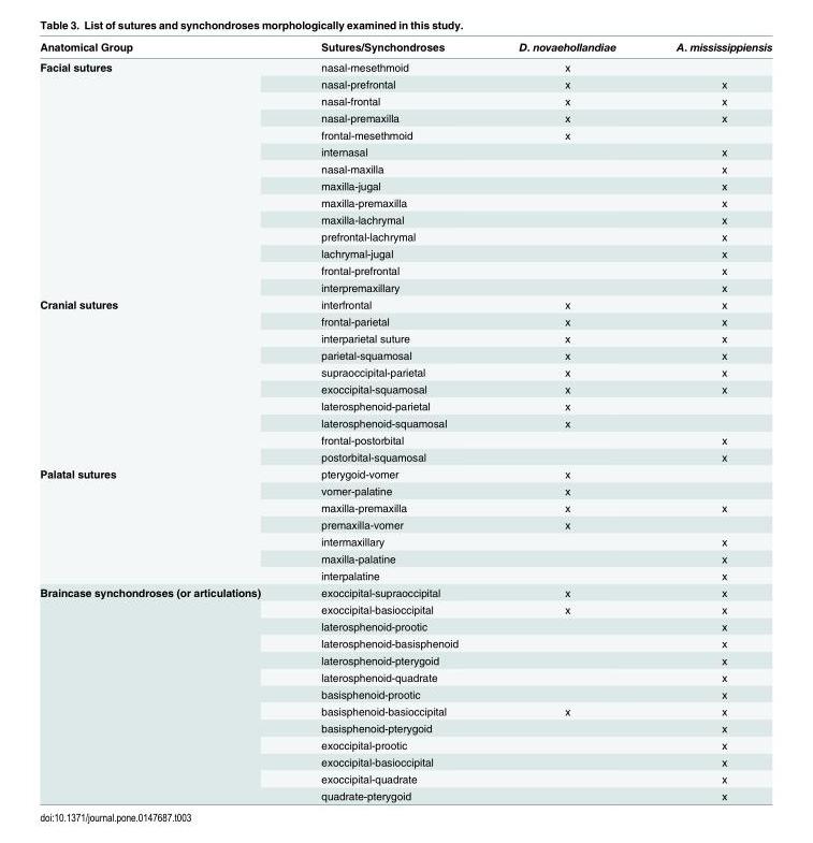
<table><thead><tr><td>Anatomical Group</td><td>Sutures/Synchondroses</td><td>D. novaehollandiae</td><td>A. mississippiensis</td></tr></thead><tbody><tr><td rowspan="14">Facial sutures</td><td>nasal-mesethmoid</td><td>x</td><td></td></tr><tr><td>nasal-prefrontal</td><td>x</td><td>x</td></tr><tr><td>nasal-frontal</td><td>x</td><td>x</td></tr><tr><td>nasal-premaxilla</td><td>x</td><td>x</td></tr><tr><td>frontal-mesethmoid</td><td>x</td><td></td></tr><tr><td>internasal</td><td></td><td>x</td></tr><tr><td>nasal-maxilla</td><td></td><td>x</td></tr><tr><td>maxilla-jugal</td><td></td><td>x</td></tr><tr><td>maxilla-premaxilla</td><td></td><td>x</td></tr><tr><td>maxilla-lachrymal</td><td></td><td>x</td></tr><tr><td>prefrontal-lachrymal</td><td></td><td>x</td></tr><tr><td>lachrymal-jugal</td><td></td><td>x</td></tr><tr><td>frontal-prefrontal</td><td></td><td>x</td></tr><tr><td>interpremaxillary</td><td></td><td>x</td></tr><tr><td rowspan="10">Cranial sutures</td><td>interfrontal</td><td>x</td><td>x</td></tr><tr><td>frontal-parietal</td><td>x</td><td>x</td></tr><tr><td>interparietal suture</td><td>x</td><td>x</td></tr><tr><td>parietal-squamosal</td><td>x</td><td>x</td></tr><tr><td>supraoccipital-parietal</td><td>x</td><td>x</td></tr><tr><td>exoccipital-squamosal</td><td>x</td><td>x</td></tr><tr><td>laterosphenoid-parietal</td><td>x</td><td></td></tr><tr><td>laterosphenoid-squamosal</td><td>x</td><td></td></tr><tr><td>frontal-postorbital</td><td></td><td>x</td></tr><tr><td>postorbital-squamosal</td><td></td><td>x</td></tr><tr><td rowspan="7">Palatal sutures</td><td>pterygoid-vomer</td><td>x</td><td></td></tr><tr><td>vomer-palatine</td><td>x</td><td></td></tr><tr><td>maxilla-premaxilla</td><td>x</td><td>x</td></tr><tr><td>premaxilla-vomer</td><td>x</td><td></td></tr><tr><td>intermaxillary</td><td></td><td>x</td></tr><tr><td>maxilla-palatine</td><td></td><td>x</td></tr><tr><td>interpalatine</td><td></td><td>x</td></tr><tr><td rowspan="13">Braincase synchondroses (or articulations)</td><td>exoccipital-supraoccipital</td><td>x</td><td>x</td></tr><tr><td>exoccipital-basioccipital</td><td>x</td><td>x</td></tr><tr><td>laterosphenoid-prootic</td><td></td><td>x</td></tr><tr><td>laterosphenoid-basisphenoid</td><td></td><td>x</td></tr><tr><td>laterosphenoid-pterygoid</td><td></td><td>x</td></tr><tr><td>laterosphenoid-quadrate</td><td></td><td>x</td></tr><tr><td>basisphenoid-prootic</td><td></td><td>x</td></tr><tr><td>basisphenoid-basioccipital</td><td>x</td><td>x</td></tr><tr><td>basisphenoid-pterygoid</td><td></td><td>x</td></tr><tr><td>exoccipital-prootic</td><td></td><td>x</td></tr><tr><td>exoccipital-basioccipital</td><td></td><td>x</td></tr><tr><td>exoccipital-quadrate</td><td></td><td>x</td></tr><tr><td>quadrate-pterygoid</td><td></td><td>x</td></tr></tbody></table>